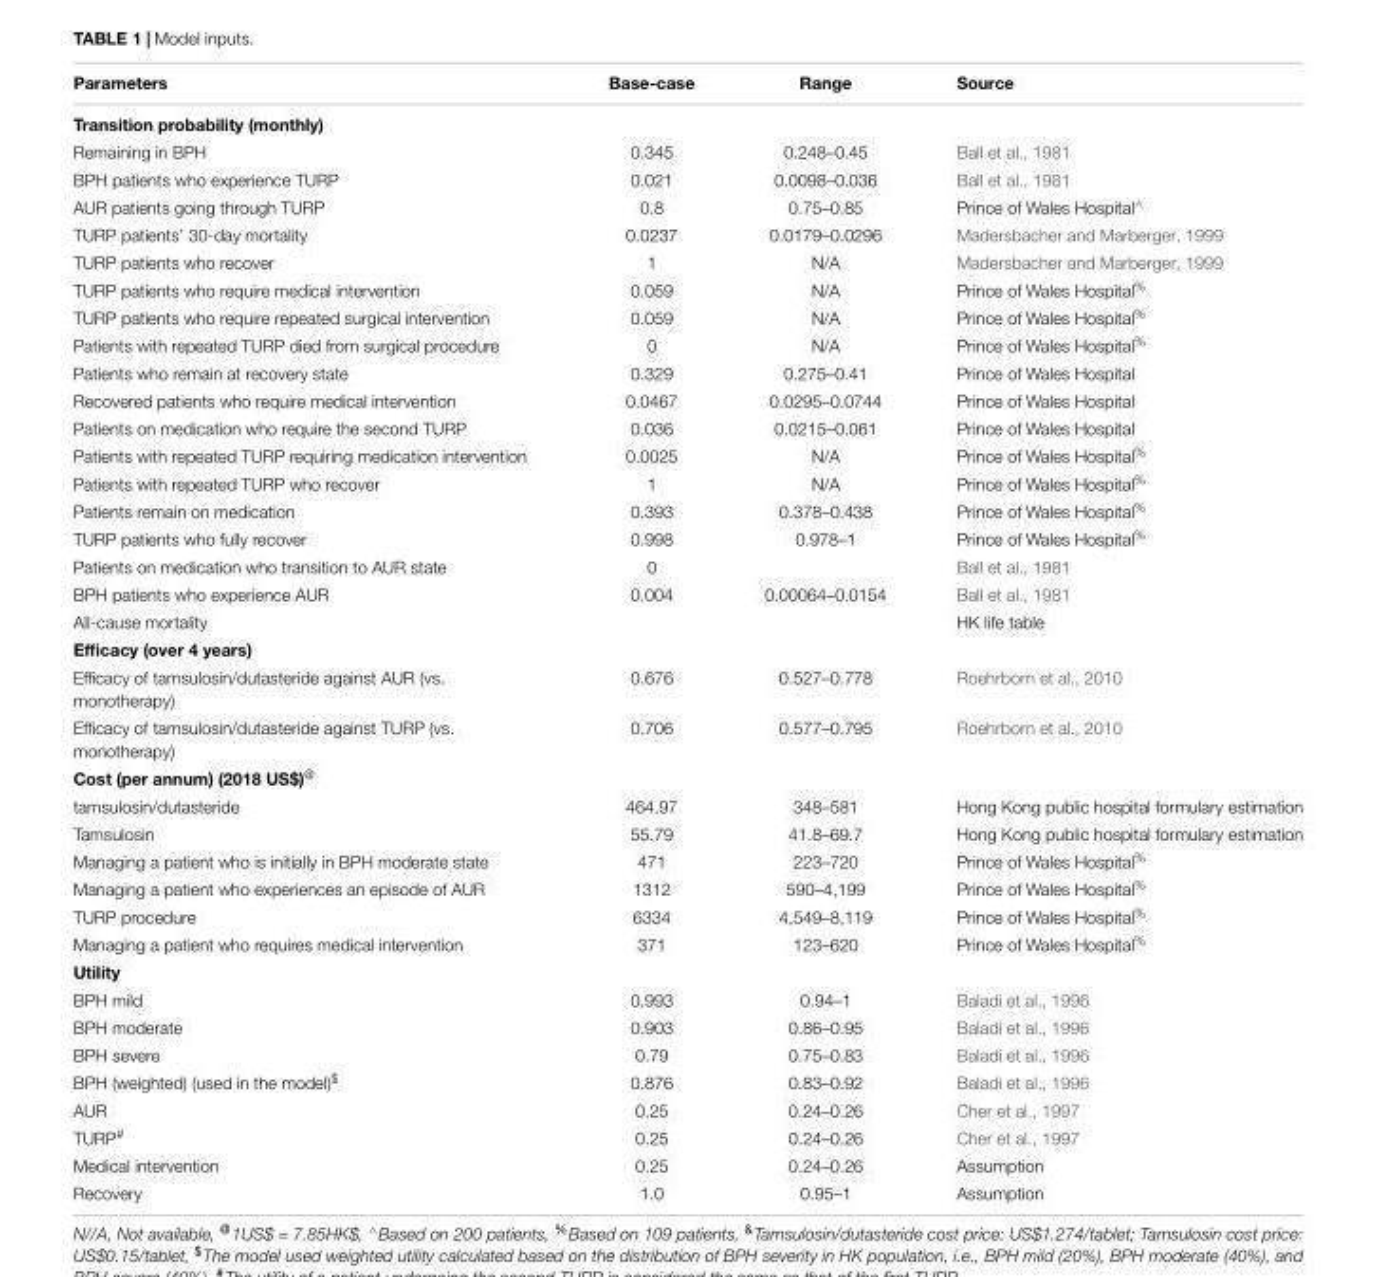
<table><thead><tr><td>Parameters</td><td>Base-case</td><td>Range</td><td>Source</td></tr></thead><tbody><tr><td colspan="4">Transition probability (monthly)</td></tr><tr><td>Remaining in BPH</td><td>0.345</td><td>0.248–0.45</td><td>Ball et al., 1981</td></tr><tr><td>BPH patients who experience TURP</td><td>0.021</td><td>0.0098–0.036</td><td>Ball et al., 1981</td></tr><tr><td>AUR patients going through TURP</td><td>0.8</td><td>0.75–0.85</td><td>Prince of Wales Hospital<sup>∧</sup></td></tr><tr><td>TURP patients’ 30-day mortality</td><td>0.0237</td><td>0.0179–0.0296</td><td>Madersbacher and Marberger, 1999</td></tr><tr><td>TURP patients who recover</td><td>1</td><td>N/A</td><td>Madersbacher and Marberger, 1999</td></tr><tr><td>TURP patients who require medical intervention</td><td>0.059</td><td>N/A</td><td>Prince of Wales Hospital<sup>%</sup></td></tr><tr><td>TURP patients who require repeated surgical intervention</td><td>0.059</td><td>N/A</td><td>Prince of Wales Hospital<sup>%</sup></td></tr><tr><td>Patients with repeated TURP died from surgical procedure</td><td>0</td><td>N/A</td><td>Prince of Wales Hospital<sup>%</sup></td></tr><tr><td>Patients who remain at recovery state</td><td>0.329</td><td>0.275–0.41</td><td>Prince of Wales Hospital</td></tr><tr><td>Recovered patients who require medical intervention</td><td>0.0467</td><td>0.0295–0.0744</td><td>Prince of Wales Hospital</td></tr><tr><td>Patients on medication who require the second TURP</td><td>0.036</td><td>0.0215–0.061</td><td>Prince of Wales Hospital</td></tr><tr><td>Patients with repeated TURP requiring medication intervention</td><td>0.0025</td><td>N/A</td><td>Prince of Wales Hospital<sup>%</sup></td></tr><tr><td>Patients with repeated TURP who recover</td><td>1</td><td>N/A</td><td>Prince of Wales Hospital<sup>%</sup></td></tr><tr><td>Patients remain on medication</td><td>0.393</td><td>0.378–0.438</td><td>Prince of Wales Hospital<sup>%</sup></td></tr><tr><td>TURP patients who fully recover</td><td>0.998</td><td>0.978–1</td><td>Prince of Wales Hospital<sup>%</sup></td></tr><tr><td>Patients on medication who transition to AUR state</td><td>0</td><td></td><td>Ball et al., 1981</td></tr><tr><td>BPH patients who experience AUR</td><td>0.004</td><td>0.00064–0.0154</td><td>Ball et al., 1981</td></tr><tr><td>All-cause mortality</td><td></td><td></td><td>HK life table</td></tr><tr><td colspan="4">Efficacy (over 4 years)</td></tr><tr><td>Efficacy of tamsulosin/dutasteride against AUR (vs. monotherapy)</td><td>0.676</td><td>0.527–0.778</td><td>Roehrborn et al., 2010</td></tr><tr><td>Efficacy of tamsulosin/dutasteride against TURP (vs. monotherapy)</td><td>0.706</td><td>0.577–0.795</td><td>Roehrborn et al., 2010</td></tr><tr><td colspan="4">Cost (per annum) (2018 US$)<sup>@</sup></td></tr><tr><td>tamsulosin/dutasteride</td><td>464.97</td><td>348–581</td><td>Hong Kong public hospital formulary estimation</td></tr><tr><td>Tamsulosin</td><td>55.79</td><td>41.8–69.7</td><td>Hong Kong public hospital formulary estimation</td></tr><tr><td>Managing a patient who is initially in BPH moderate state</td><td>471</td><td>223–720</td><td>Prince of Wales Hospital<sup>%</sup></td></tr><tr><td>Managing a patient who experiences an episode of AUR</td><td>1312</td><td>590–4,199</td><td>Prince of Wales Hospital<sup>%</sup></td></tr><tr><td>TURP procedure</td><td>6334</td><td>4,549–8,119</td><td>Prince of Wales Hospital<sup>%</sup></td></tr><tr><td>Managing a patient who requires medical intervention</td><td>371</td><td>123–620</td><td>Prince of Wales Hospital<sup>%</sup></td></tr><tr><td colspan="4">Utility</td></tr><tr><td>BPH mild</td><td>0.993</td><td>0.94–1</td><td>Baladi et al., 1996</td></tr><tr><td>BPH moderate</td><td>0.903</td><td>0.86–0.95</td><td>Baladi et al., 1996</td></tr><tr><td>BPH severe</td><td>0.79</td><td>0.75–0.83</td><td>Baladi et al., 1996</td></tr><tr><td>BPH (weighted) (used in the model)<sup>$</sup></td><td>0.876</td><td>0.83–0.92</td><td>Baladi et al., 1996</td></tr><tr><td>AUR</td><td>0.25</td><td>0.24–0.26</td><td>Cher et al., 1997</td></tr><tr><td>TURP<sup>#</sup></td><td>0.25</td><td>0.24–0.26</td><td>Cher et al., 1997</td></tr><tr><td>Medical intervention</td><td>0.25</td><td>0.24–0.26</td><td>Assumption</td></tr><tr><td>Recovery</td><td>1.0</td><td>0.95–1</td><td>Assumption</td></tr></tbody></table>